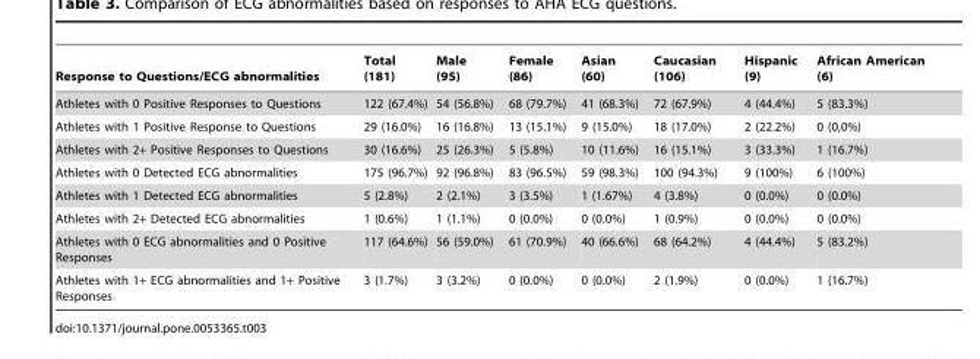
<table><thead><tr><td>Response to Questions/ECG abnormalities</td><td>Total (181)</td><td>Male (95)</td><td>Female (86)</td><td>Asian (60)</td><td>Caucasian (106)</td><td>Hispanic (9)</td><td>African American (6)</td></tr></thead><tbody><tr><td>Athletes with 0 Positive Responses to Questions</td><td>122 (67.4%)</td><td>54 (56.8%)</td><td>68 (79.7%)</td><td>41 (68.3%)</td><td>72 (67.9%)</td><td>4 (44.4%)</td><td>5 (83.3%)</td></tr><tr><td>Athletes with 1 Positive Response to Questions</td><td>29 (16.0%)</td><td>16 (16.8%)</td><td>13 (15.1%)</td><td>9 (15.0%)</td><td>18 (17.0%)</td><td>2 (22.2%)</td><td>0 (0,0%)</td></tr><tr><td>Athletes with 2+ Positive Responses to Questions</td><td>30 (16.6%)</td><td>25 (26.3%)</td><td>5 (5.8%)</td><td>10 (11.6%)</td><td>16 (15.1%)</td><td>3 (33.3%)</td><td>1 (16.7%)</td></tr><tr><td>Athletes with 0 Detected ECG abnormalities</td><td>175 (96.7%)</td><td>92 (96.8%)</td><td>83 (96.5%)</td><td>59 (98.3%)</td><td>100 (94.3%)</td><td>9 (100%)</td><td>6 (100%)</td></tr><tr><td>Athletes with 1 Detected ECG abnormalities</td><td>5 (2.8%)</td><td>2 (2.1%)</td><td>3 (3.5%)</td><td>1 (1.67%)</td><td>4 (3.8%)</td><td>0 (0.0%)</td><td>0 (0.0%)</td></tr><tr><td>Athletes with 2+ Detected ECG abnormalities</td><td>1 (0.6%)</td><td>1 (1.1%)</td><td>0 (0.0%)</td><td>0 (0.0%)</td><td>1 (0.9%)</td><td>0 (0.0%)</td><td>0 (0.0%)</td></tr><tr><td>Athletes with 0 ECG abnormalities and 0 Positive Responses</td><td>117 (64.6%)</td><td>56 (59.0%)</td><td>61 (70.9%)</td><td>40 (66.6%)</td><td>68 (64.2%)</td><td>4 (44.4%)</td><td>5 (83.2%)</td></tr><tr><td>Athletes with 1+ ECG abnormalities and 1+ Positive Responses</td><td>3 (1.7%)</td><td>3 (3.2%)</td><td>0 (0.0%)</td><td>0 (0.0%)</td><td>2 (1.9%)</td><td>0 (0.0%)</td><td>1 (16.7%)</td></tr></tbody></table>